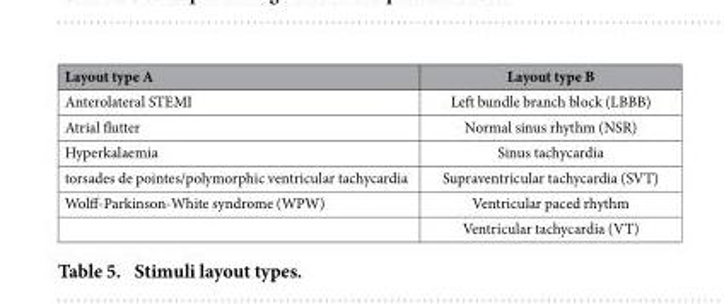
<table><thead><tr><td>Layout type A</td><td>Layout type B</td></tr></thead><tbody><tr><td>Anterolateral STEMI</td><td>Left bundle branch block (LBBB)</td></tr><tr><td>Atrial flutter</td><td>Normal sinus rhythm (NSR)</td></tr><tr><td>Hyperkalaemia</td><td>Sinus tachycardia</td></tr><tr><td>torsades de pointes/polymorphic ventricular tachycardia</td><td>Supraventricular tachycardia (SVT)</td></tr><tr><td rowspan="2">Wolff-Parkinson-White syndrome (WPW)</td><td>Ventricular paced rhythm</td></tr><tr><td>Ventricular tachycardia (VT)</td></tr></tbody></table>